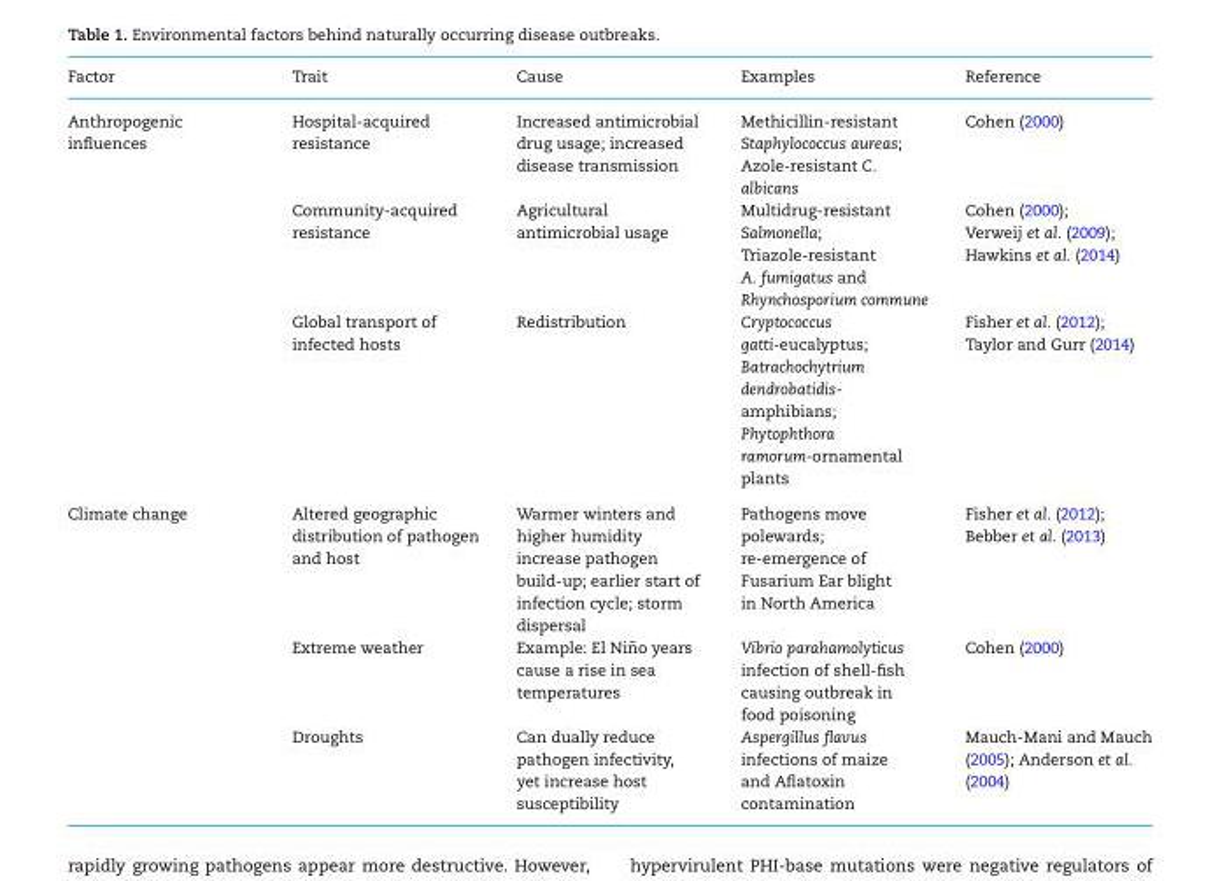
<table><thead><tr><td>Factor</td><td>Trait</td><td>Cause</td><td>Examples</td><td>Reference</td></tr></thead><tbody><tr><td rowspan="3">Anthropogenic influences</td><td>Hospital-acquired resistance</td><td>Increased antimicrobial drug usage; increased disease transmission</td><td>Methicillin-resistant Staphylococcus aureas; Azole-resistant C. albicans</td><td>Cohen (2000)</td></tr><tr><td>Community-acquired resistance</td><td>Agricultural antimicrobial usage</td><td>Multidrug-resistant Salmonella; Triazole-resistant A. fumigatus and Rhynchosporium commune</td><td>Cohen (2000); Verweij et al. (2009); Hawkins et al. (2014)</td></tr><tr><td>Global transport of infected hosts</td><td>Redistribution</td><td>Cryptococcus gatti-eucalyptus; Batrachochytrium dendrobatidis- amphibians; Phytophthora ramorum-ornamental plants</td><td>Fisher et al. (2012); Taylor and Gurr (2014)</td></tr><tr><td rowspan="3">Climate change</td><td>Altered geographic distribution of pathogen and host</td><td>Warmer winters and higher humidity increase pathogen build-up; earlier start of infection cycle; storm dispersal</td><td>Pathogens move polewards; re-emergence of Fusarium Ear blight in North America</td><td>Fisher et al. (2012); Bebber et al. (2013)</td></tr><tr><td>Extreme weather</td><td>Example: El Ni ˜no years cause a rise in sea temperatures</td><td>Vibrio parahamolyticus infection of shell-fish causing outbreak in food poisoning</td><td>Cohen (2000)</td></tr><tr><td>Droughts</td><td>Can dually reduce pathogen infectivity, yet increase host susceptibility</td><td>Aspergillus flavus infections of maize and Aflatoxin contamination</td><td>Mauch-Mani and Mauch (2005); Anderson et al. (2004)</td></tr></tbody></table>